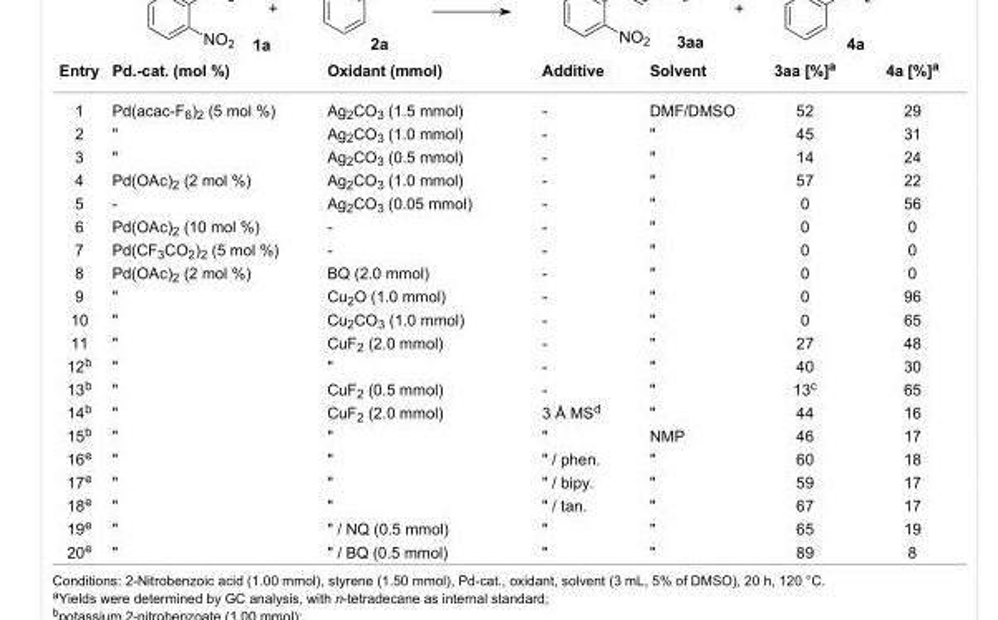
<table><tbody><tr><td>Entry</td><td>Pd.-cat. (mol %)</td><td>Oxidant (mmol)</td><td>Additive</td><td>Solvent</td><td>3aa [%]<sup>a</sup></td><td>4a [%]<sup>a</sup></td></tr><tr><td>1</td><td>Pd(acac-F<sub>6</sub>)<sub>2</sub> (5 mol %)</td><td>Ag<sub>2</sub>CO<sub>3</sub> (1.5 mmol)</td><td>-</td><td>DMF/DMSO</td><td>52</td><td>29</td></tr><tr><td>2</td><td>&quot;</td><td>Ag<sub>2</sub>CO<sub>3</sub> (1.0 mmol)</td><td>-</td><td>&quot;</td><td>45</td><td>31</td></tr><tr><td>3</td><td>&quot;</td><td>Ag<sub>2</sub>CO<sub>3</sub> (0.5 mmol)</td><td>-</td><td>&quot;</td><td>14</td><td>24</td></tr><tr><td>4</td><td>Pd(OAc)<sub>2</sub> (2 mol %)</td><td>Ag<sub>2</sub>CO<sub>3</sub> (1.0 mmol)</td><td>-</td><td>&quot;</td><td>57</td><td>22</td></tr><tr><td>5</td><td>-</td><td>Ag<sub>2</sub>CO<sub>3</sub> (0.05 mmol)</td><td>-</td><td>&quot;</td><td>0</td><td>56</td></tr><tr><td>6</td><td>Pd(OAc)<sub>2</sub> (10 mol %)</td><td>-</td><td>-</td><td>&quot;</td><td>0</td><td>0</td></tr><tr><td>7</td><td>Pd(CF<sub>3</sub>CO<sub>2</sub>)<sub>2</sub> (5 mol %)</td><td>-</td><td>-</td><td>&quot;</td><td>0</td><td>0</td></tr><tr><td>8</td><td>Pd(OAc)<sub>2</sub> (2 mol %)</td><td>BQ (2.0 mmol)</td><td>-</td><td>&quot;</td><td>0</td><td>0</td></tr><tr><td>9</td><td>&quot;</td><td>Cu<sub>2</sub>O (1.0 mmol)</td><td>-</td><td>&quot;</td><td>0</td><td>96</td></tr><tr><td>10</td><td>&quot;</td><td>Cu<sub>2</sub>CO<sub>3</sub> (1.0 mmol)</td><td>-</td><td>&quot;</td><td>0</td><td>65</td></tr><tr><td>11</td><td>&quot;</td><td>CuF<sub>2</sub> (2.0 mmol)</td><td>-</td><td>&quot;</td><td>27</td><td>48</td></tr><tr><td>12<sup>b</sup></td><td>&quot;</td><td>&quot;</td><td>-</td><td>&quot;</td><td>40</td><td>30</td></tr><tr><td>13<sup>b</sup></td><td>&quot;</td><td>CuF<sub>2</sub> (0.5 mmol)</td><td>-</td><td>&quot;</td><td>13<sup>c</sup></td><td>65</td></tr><tr><td>14<sup>b</sup></td><td>&quot;</td><td>CuF<sub>2</sub> (2.0 mmol)</td><td>3 Å MS<sup>d</sup></td><td>&quot;</td><td>44</td><td>16</td></tr><tr><td>15<sup>b</sup></td><td>&quot;</td><td>&quot;</td><td>&quot;</td><td>NMP</td><td>46</td><td>17</td></tr><tr><td>16<sup>e</sup></td><td>&quot;</td><td>&quot;</td><td>&quot; / phen.</td><td>&quot;</td><td>60</td><td>18</td></tr><tr><td>17<sup>e</sup></td><td>&quot;</td><td>&quot;</td><td>&quot; / bipy.</td><td>&quot;</td><td>59</td><td>17</td></tr><tr><td>18<sup>e</sup></td><td>&quot;</td><td>&quot;</td><td>&quot; / tan.</td><td>&quot;</td><td>67</td><td>17</td></tr><tr><td>19<sup>e</sup></td><td>&quot;</td><td>&quot; / NQ (0.5 mmol)</td><td>&quot;</td><td>&quot;</td><td>65</td><td>19</td></tr><tr><td>20<sup>e</sup></td><td>&quot;</td><td>&quot; / BQ (0.5 mmol)</td><td>&quot;</td><td>&quot;</td><td>89</td><td>8</td></tr></tbody></table>